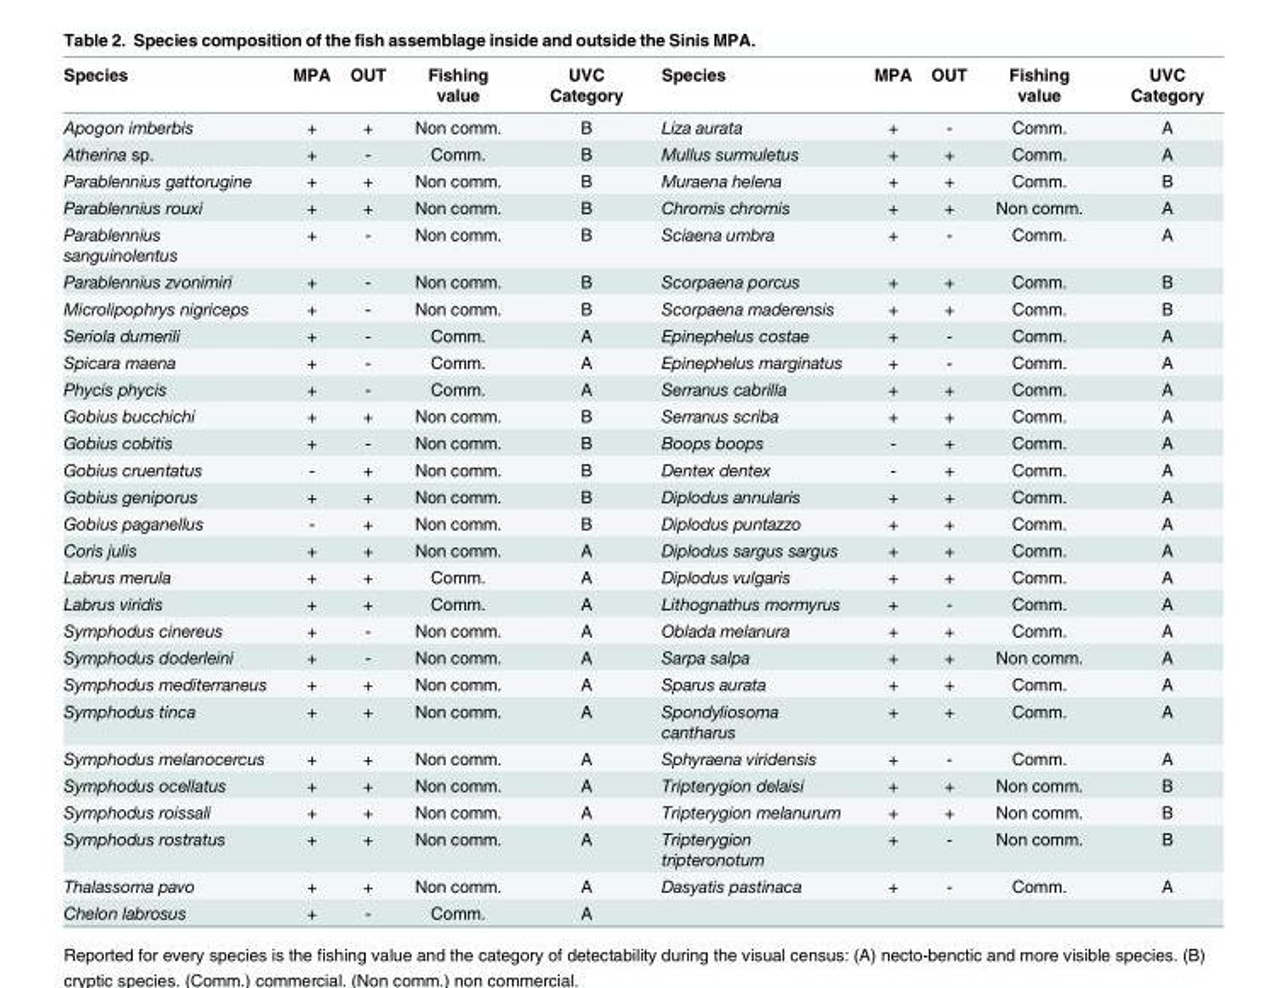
<table><thead><tr><td>Species</td><td>MPA</td><td>OUT</td><td>Fishing value</td><td>UVC Category</td><td>Species</td><td>MPA</td><td>OUT</td><td>Fishing value</td><td>UVC Category</td></tr></thead><tbody><tr><td>Apogon imberbis</td><td>+</td><td>+</td><td>Non comm.</td><td>B</td><td>Liza aurata</td><td>+</td><td>-</td><td>Comm.</td><td>A</td></tr><tr><td>Atherina sp.</td><td>+</td><td>-</td><td>Comm.</td><td>B</td><td>Mullus surmuletus</td><td>+</td><td>+</td><td>Comm.</td><td>A</td></tr><tr><td>Parablennius gattorugine</td><td>+</td><td>+</td><td>Non comm.</td><td>B</td><td>Muraena helena</td><td>+</td><td>+</td><td>Comm.</td><td>B</td></tr><tr><td>Parablennius rouxi</td><td>+</td><td>+</td><td>Non comm.</td><td>B</td><td>Chromis chromis</td><td>+</td><td>+</td><td>Non comm.</td><td>A</td></tr><tr><td>Parablennius sanguinolentus</td><td>+</td><td>-</td><td>Non comm.</td><td>B</td><td>Sciaena umbra</td><td>+</td><td>-</td><td>Comm.</td><td>A</td></tr><tr><td>Parablennius zvonimiri</td><td>+</td><td>-</td><td>Non comm.</td><td>B</td><td>Scorpaena porcus</td><td>+</td><td>+</td><td>Comm.</td><td>B</td></tr><tr><td>Microlipophrys nigriceps</td><td>+</td><td>-</td><td>Non comm.</td><td>B</td><td>Scorpaena maderensis</td><td>+</td><td>+</td><td>Comm.</td><td>B</td></tr><tr><td>Seriola dumerili</td><td>+</td><td>-</td><td>Comm.</td><td>A</td><td>Epinephelus costae</td><td>+</td><td>-</td><td>Comm.</td><td>A</td></tr><tr><td>Spicara maena</td><td>+</td><td>-</td><td>Comm.</td><td>A</td><td>Epinephelus marginatus</td><td>+</td><td>-</td><td>Comm.</td><td>A</td></tr><tr><td>Phycis phycis</td><td>+</td><td>-</td><td>Comm.</td><td>A</td><td>Serranus cabrilla</td><td>+</td><td>+</td><td>Comm.</td><td>A</td></tr><tr><td>Gobius bucchichi</td><td>+</td><td>+</td><td>Non comm.</td><td>B</td><td>Serranus scriba</td><td>+</td><td>+</td><td>Comm.</td><td>A</td></tr><tr><td>Gobius cobitis</td><td>+</td><td>-</td><td>Non comm.</td><td>B</td><td>Boops boops</td><td>-</td><td>+</td><td>Comm.</td><td>A</td></tr><tr><td>Gobius cruentatus</td><td>-</td><td>+</td><td>Non comm.</td><td>B</td><td>Dentex dentex</td><td>-</td><td>+</td><td>Comm.</td><td>A</td></tr><tr><td>Gobius geniporus</td><td>+</td><td>+</td><td>Non comm.</td><td>B</td><td>Diplodus annularis</td><td>+</td><td>+</td><td>Comm.</td><td>A</td></tr><tr><td>Gobius paganellus</td><td>-</td><td>+</td><td>Non comm.</td><td>B</td><td>Diplodus puntazzo</td><td>+</td><td>+</td><td>Comm.</td><td>A</td></tr><tr><td>Coris julis</td><td>+</td><td>+</td><td>Non comm.</td><td>A</td><td>Diplodus sargus sargus</td><td>+</td><td>+</td><td>Comm.</td><td>A</td></tr><tr><td>Labrus merula</td><td>+</td><td>+</td><td>Comm.</td><td>A</td><td>Diplodus vulgaris</td><td>+</td><td>+</td><td>Comm.</td><td>A</td></tr><tr><td>Labrus viridis</td><td>+</td><td>+</td><td>Comm.</td><td>A</td><td>Lithognathus mormyrus</td><td>+</td><td>-</td><td>Comm.</td><td>A</td></tr><tr><td>Symphodus cinereus</td><td>+</td><td>-</td><td>Non comm.</td><td>A</td><td>Oblada melanura</td><td>+</td><td>+</td><td>Comm.</td><td>A</td></tr><tr><td>Symphodus doderleini</td><td>+</td><td>-</td><td>Non comm.</td><td>A</td><td>Sarpa salpa</td><td>+</td><td>+</td><td>Non comm.</td><td>A</td></tr><tr><td>Symphodus mediterraneus</td><td>+</td><td>+</td><td>Non comm.</td><td>A</td><td>Sparus aurata</td><td>+</td><td>+</td><td>Comm.</td><td>A</td></tr><tr><td>Symphodus tinca</td><td>+</td><td>+</td><td>Non comm.</td><td>A</td><td>Spondyliosoma cantharus</td><td>+</td><td>+</td><td>Comm.</td><td>A</td></tr><tr><td>Symphodus melanocercus</td><td>+</td><td>+</td><td>Non comm.</td><td>A</td><td>Sphyraena viridensis</td><td>+</td><td>-</td><td>Comm.</td><td>A</td></tr><tr><td>Symphodus ocellatus</td><td>+</td><td>+</td><td>Non comm.</td><td>A</td><td>Tripterygion delaisi</td><td>+</td><td>+</td><td>Non comm.</td><td>B</td></tr><tr><td>Symphodus roissali</td><td>+</td><td>+</td><td>Non comm.</td><td>A</td><td>Tripterygion melanurum</td><td>+</td><td>+</td><td>Non comm.</td><td>B</td></tr><tr><td>Symphodus rostratus</td><td>+</td><td>+</td><td>Non comm.</td><td>A</td><td>Tripterygion tripteronotum</td><td>+</td><td>-</td><td>Non comm.</td><td>B</td></tr><tr><td>Thalassoma pavo</td><td>+</td><td>+</td><td>Non comm.</td><td>A</td><td>Dasyatis pastinaca</td><td>+</td><td>-</td><td>Comm.</td><td>A</td></tr><tr><td>Chelon labrosus</td><td>+</td><td>-</td><td>Comm.</td><td>A</td><td></td><td></td><td></td><td></td><td></td></tr></tbody></table>